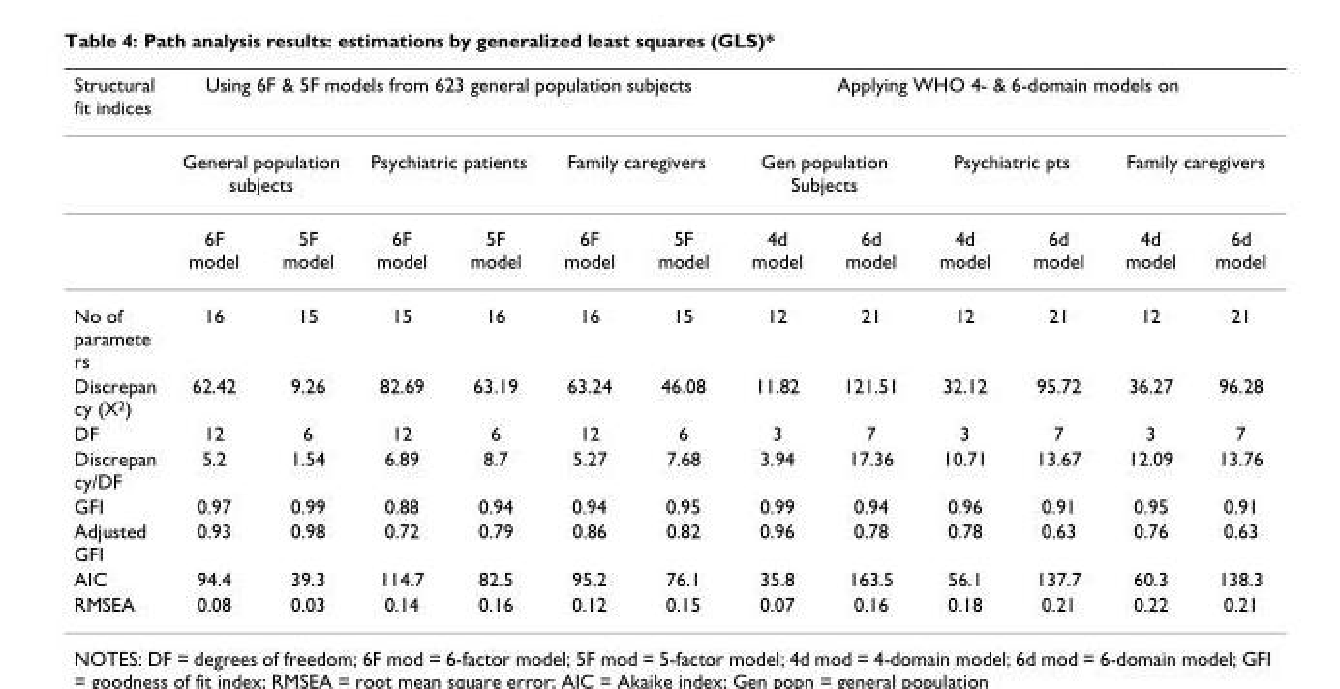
<table><thead><tr><td rowspan="3">Structural fit indices</td><td colspan="6">Using 6F &amp; 5F models from 623 general population subjects</td><td colspan="6">Applying WHO 4- &amp; 6-domain models on</td></tr><tr><td colspan="2">General population subjects</td><td colspan="2">Psychiatric patients</td><td colspan="2">Family caregivers</td><td colspan="2">Gen population Subjects</td><td colspan="2">Psychiatric pts</td><td colspan="2">Family caregivers</td></tr><tr><td>6F model</td><td>5F model</td><td>6F model</td><td>5F model</td><td>6F model</td><td>5F model</td><td>4d model</td><td>6d model</td><td>4d model</td><td>6d model</td><td>4d model</td><td>6d model</td></tr></thead><tbody><tr><td>No of paramete rs</td><td>16</td><td>15</td><td>15</td><td>16</td><td>16</td><td>15</td><td>12</td><td>21</td><td>12</td><td>21</td><td>12</td><td>21</td></tr><tr><td>Discrepan cy (X<sup>2</sup>)</td><td>62.42</td><td>9.26</td><td>82.69</td><td>63.19</td><td>63.24</td><td>46.08</td><td>11.82</td><td>121.51</td><td>32.12</td><td>95.72</td><td>36.27</td><td>96.28</td></tr><tr><td>DF</td><td>12</td><td>6</td><td>12</td><td>6</td><td>12</td><td>6</td><td>3</td><td>7</td><td>3</td><td>7</td><td>3</td><td>7</td></tr><tr><td>Discrepan cy/DF</td><td>5.2</td><td>1.54</td><td>6.89</td><td>8.7</td><td>5.27</td><td>7.68</td><td>3.94</td><td>17.36</td><td>10.71</td><td>13.67</td><td>12.09</td><td>13.76</td></tr><tr><td>GFI</td><td>0.97</td><td>0.99</td><td>0.88</td><td>0.94</td><td>0.94</td><td>0.95</td><td>0.99</td><td>0.94</td><td>0.96</td><td>0.91</td><td>0.95</td><td>0.91</td></tr><tr><td>Adjusted GFI</td><td>0.93</td><td>0.98</td><td>0.72</td><td>0.79</td><td>0.86</td><td>0.82</td><td>0.96</td><td>0.78</td><td>0.78</td><td>0.63</td><td>0.76</td><td>0.63</td></tr><tr><td>AIC</td><td>94.4</td><td>39.3</td><td>114.7</td><td>82.5</td><td>95.2</td><td>76.1</td><td>35.8</td><td>163.5</td><td>56.1</td><td>137.7</td><td>60.3</td><td>138.3</td></tr><tr><td>RMSEA</td><td>0.08</td><td>0.03</td><td>0.14</td><td>0.16</td><td>0.12</td><td>0.15</td><td>0.07</td><td>0.16</td><td>0.18</td><td>0.21</td><td>0.22</td><td>0.21</td></tr></tbody></table>